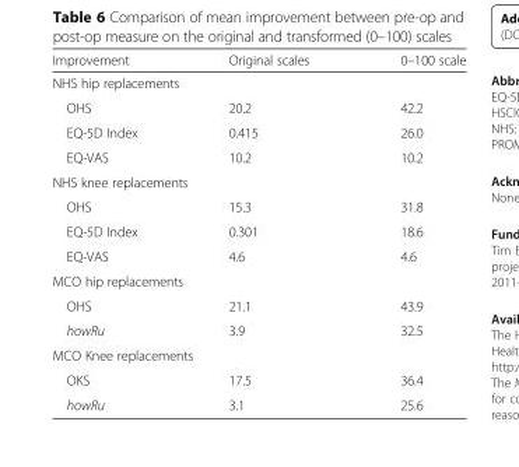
<table><thead><tr><td>Improvement</td><td>Original scales</td><td>0–100 scale</td></tr></thead><tbody><tr><td colspan="3">NHS hip replacements</td></tr><tr><td>OHS</td><td>20.2</td><td>42.2</td></tr><tr><td>EQ-5D Index</td><td>0.415</td><td>26.0</td></tr><tr><td>EQ-VAS</td><td>10.2</td><td>10.2</td></tr><tr><td colspan="3">NHS knee replacements</td></tr><tr><td>OHS</td><td>15.3</td><td>31.8</td></tr><tr><td>EQ-5D Index</td><td>0.301</td><td>18.6</td></tr><tr><td>EQ-VAS</td><td>4.6</td><td>4.6</td></tr><tr><td colspan="3">MCO hip replacements</td></tr><tr><td>OHS</td><td>21.1</td><td>43.9</td></tr><tr><td>howRu</td><td>3.9</td><td>32.5</td></tr><tr><td colspan="3">MCO Knee replacements</td></tr><tr><td>OKS</td><td>17.5</td><td>36.4</td></tr><tr><td>howRu</td><td>3.1</td><td>25.6</td></tr></tbody></table>